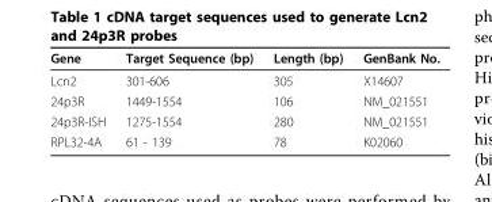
<table><thead><tr><td>Gene</td><td>Target Sequence (bp)</td><td>Length (bp)</td><td>GenBank No.</td></tr></thead><tbody><tr><td>Lcn2</td><td>301-606</td><td>305</td><td>X14607</td></tr><tr><td>24p3R</td><td>1449-1554</td><td>106</td><td>NM_021551</td></tr><tr><td>24p3R-ISH</td><td>1275-1554</td><td>280</td><td>NM_021551</td></tr><tr><td>RPL32-4A</td><td>61 - 139</td><td>78</td><td>K02060</td></tr></tbody></table>